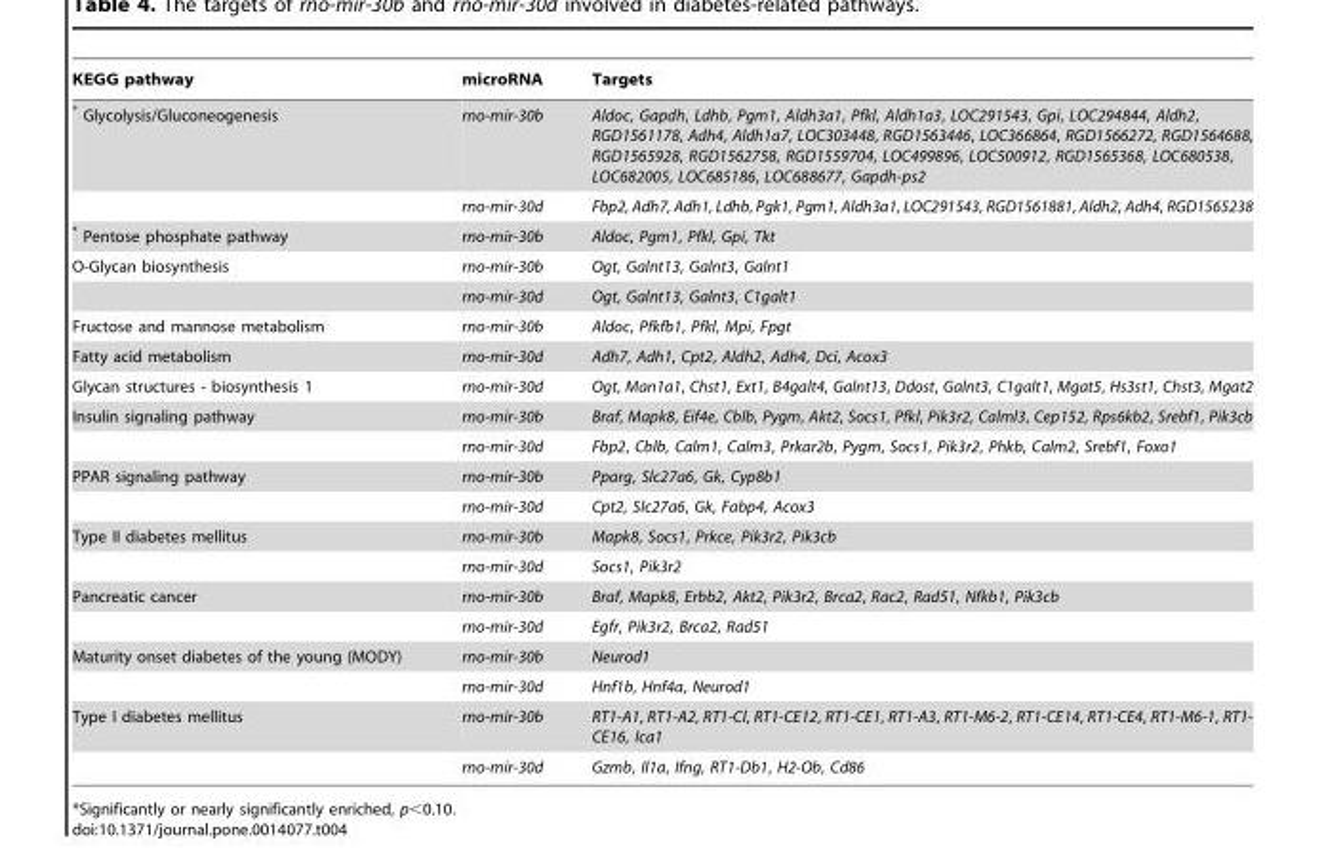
<table><thead><tr><td>KEGG pathway</td><td>microRNA</td><td>Targets</td></tr></thead><tbody><tr><td rowspan="2">* Glycolysis/Gluconeogenesis</td><td>rno-mir-30b</td><td>Aldoc, Gapdh, Ldhb, Pgm1, Aldh3a1, Pfkl, Aldh1a3, LOC291543, Gpi, LOC294844, Aldh2, RGD1561178, Adh4, Aldh1a7, LOC303448, RGD1563446, LOC366864, RGD1566272, RGD1564688, RGD1565928, RGD1562758, RGD1559704, LOC499896, LOC500912, RGD1565368, LOC680538, LOC682005, LOC685186, LOC688677, Gapdh-ps2</td></tr><tr><td>rno-mir-30d</td><td>Fbp2, Adh7, Adh1, Ldhb, Pgk1, Pgm1, Aldh3a1, LOC291543, RGD1561881, Aldh2, Adh4, RGD1565238</td></tr><tr><td>* Pentose phosphate pathway</td><td>rno-mir-30b</td><td>Aldoc, Pgm1, Pfkl, Gpi, Tkt</td></tr><tr><td rowspan="2">O-Glycan biosynthesis</td><td>rno-mir-30b</td><td>Ogt, Galnt13, Galnt3, Galnt1</td></tr><tr><td>rno-mir-30d</td><td>Ogt, Galnt13, Galnt3, C1galt1</td></tr><tr><td>Fructose and mannose metabolism</td><td>rno-mir-30b</td><td>Aldoc, Pfkfb1, Pfkl, Mpi, Fpgt</td></tr><tr><td>Fatty acid metabolism</td><td>rno-mir-30d</td><td>Adh7, Adh1, Cpt2, Aldh2, Adh4, Dci, Acox3</td></tr><tr><td>Glycan structures - biosynthesis 1</td><td>rno-mir-30d</td><td>Ogt, Man1a1, Chst1, Ext1, B4galt4, Galnt13, Ddost, Galnt3, C1galt1, Mgat5, Hs3st1, Chst3, Mgat2</td></tr><tr><td rowspan="2">Insulin signaling pathway</td><td>rno-mir-30b</td><td>Braf, Mapk8, Eif4e, Cblb, Pygm, Akt2, Socs1, Pfkl, Pik3r2, Calml3, Cep152, Rps6kb2, Srebf1, Pik3cb</td></tr><tr><td>rno-mir-30d</td><td>Fbp2, Cblb, Calm1, Calm3, Prkar2b, Pygm, Socs1, Pik3r2, Phkb, Calm2, Srebf1, Foxo1</td></tr><tr><td rowspan="2">PPAR signaling pathway</td><td>rno-mir-30b</td><td>Pparg, Slc27a6, Gk, Cyp8b1</td></tr><tr><td>rno-mir-30d</td><td>Cpt2, Slc27a6, Gk, Fabp4, Acox3</td></tr><tr><td rowspan="2">Type II diabetes mellitus</td><td>rno-mir-30b</td><td>Mapk8, Socs1, Prkce, Pik3r2, Pik3cb</td></tr><tr><td>rno-mir-30d</td><td>Socs1, Pik3r2</td></tr><tr><td rowspan="2">Pancreatic cancer</td><td>rno-mir-30b</td><td>Braf, Mapk8, Erbb2, Akt2, Pik3r2, Brca2, Rac2, Rad51, Nfkb1, Pik3cb</td></tr><tr><td>rno-mir-30d</td><td>Egfr, Pik3r2, Brca2, Rad51</td></tr><tr><td rowspan="2">Maturity onset diabetes of the young (MODY)</td><td>rno-mir-30b</td><td>Neurod1</td></tr><tr><td>rno-mir-30d</td><td>Hnf1b, Hnf4a, Neurod1</td></tr><tr><td rowspan="2">Type I diabetes mellitus</td><td>rno-mir-30b</td><td>RT1-A1, RT1-A2, RT1-Cl, RT1-CE12, RT1-CE1, RT1-A3, RT1-M6-2, RT1-CE14, RT1-CE4, RT1-M6-1, RT1- CE16, Ica1</td></tr><tr><td>rno-mir-30d</td><td>Gzmb, Il1a, Ifng, RT1-Db1, H2-Ob, Cd86</td></tr></tbody></table>